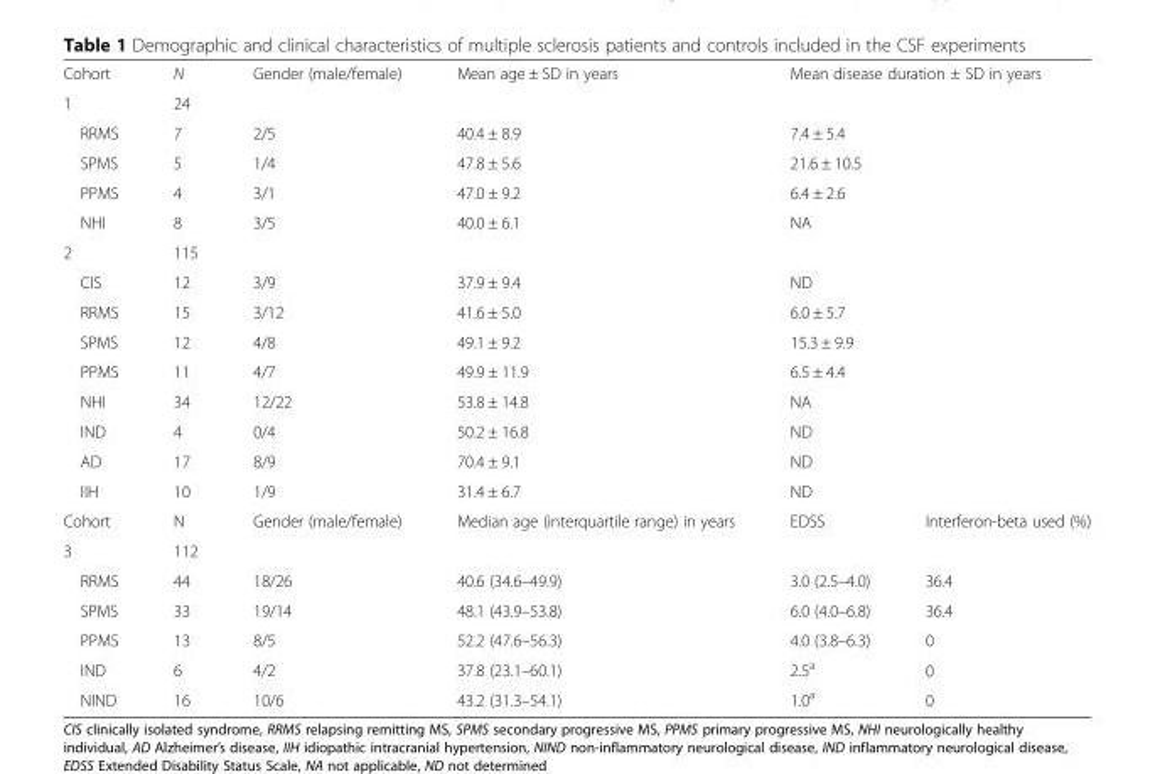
<table><tbody><tr><td>Cohort</td><td>N</td><td>Gender (male/female)</td><td>Mean age ± SD in years</td><td colspan="2">Mean disease duration ± SD in years</td></tr><tr><td>1</td><td>24</td><td></td><td></td><td colspan="2"></td></tr><tr><td>RRMS</td><td>7</td><td>2/5</td><td>40.4 ± 8.9</td><td colspan="2">7.4 ± 5.4</td></tr><tr><td>SPMS</td><td>5</td><td>1/4</td><td>47.8 ± 5.6</td><td colspan="2">21.6 ± 10.5</td></tr><tr><td>PPMS</td><td>4</td><td>3/1</td><td>47.0 ± 9.2</td><td colspan="2">6.4 ± 2.6</td></tr><tr><td>NHI</td><td>8</td><td>3/5</td><td>40.0 ± 6.1</td><td colspan="2">NA</td></tr><tr><td>2</td><td>115</td><td></td><td></td><td colspan="2"></td></tr><tr><td>CIS</td><td>12</td><td>3/9</td><td>37.9 ± 9.4</td><td colspan="2">ND</td></tr><tr><td>RRMS</td><td>15</td><td>3/12</td><td>41.6 ± 5.0</td><td colspan="2">6.0 ± 5.7</td></tr><tr><td>SPMS</td><td>12</td><td>4/8</td><td>49.1 ± 9.2</td><td colspan="2">15.3 ± 9.9</td></tr><tr><td>PPMS</td><td>11</td><td>4/7</td><td>49.9 ± 11.9</td><td colspan="2">6.5 ± 4.4</td></tr><tr><td>NHI</td><td>34</td><td>12/22</td><td>53.8 ± 14.8</td><td colspan="2">NA</td></tr><tr><td>IND</td><td>4</td><td>0/4</td><td>50.2 ± 16.8</td><td colspan="2">ND</td></tr><tr><td>AD</td><td>17</td><td>8/9</td><td>70.4 ± 9.1</td><td colspan="2">ND</td></tr><tr><td>IIH</td><td>10</td><td>1/9</td><td>31.4 ± 6.7</td><td colspan="2">ND</td></tr><tr><td>Cohort</td><td>N</td><td>Gender (male/female)</td><td>Median age (interquartile range) in years</td><td>EDSS</td><td>Interferon-beta used (%)</td></tr><tr><td>3</td><td>112</td><td></td><td></td><td></td><td></td></tr><tr><td>RRMS</td><td>44</td><td>18/26</td><td>40.6 (34.6–49.9)</td><td>3.0 (2.5–4.0)</td><td>36.4</td></tr><tr><td>SPMS</td><td>33</td><td>19/14</td><td>48.1 (43.9–53.8)</td><td>6.0 (4.0–6.8)</td><td>36.4</td></tr><tr><td>PPMS</td><td>13</td><td>8/5</td><td>52.2 (47.6–56.3)</td><td>4.0 (3.8–6.3)</td><td>0</td></tr><tr><td>IND</td><td>6</td><td>4/2</td><td>37.8 (23.1–60.1)</td><td>2.5<sup>a</sup></td><td>0</td></tr><tr><td>NIND</td><td>16</td><td>10/6</td><td>43.2 (31.3–54.1)</td><td>1.0<sup>a</sup></td><td>0</td></tr></tbody></table>